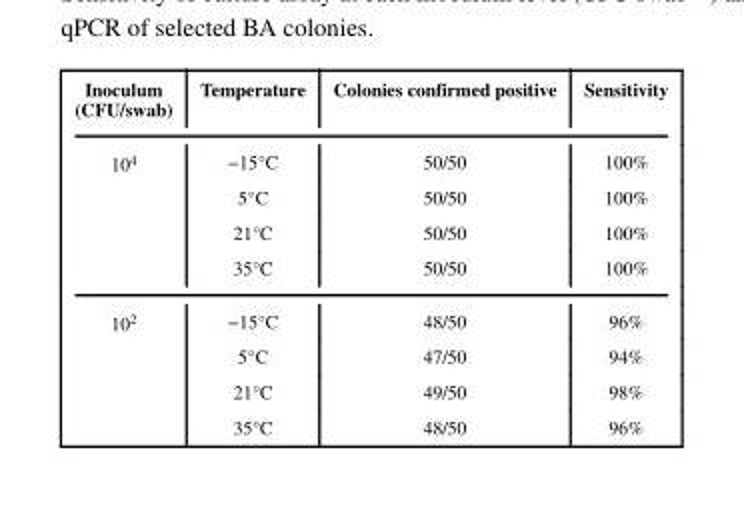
<table><thead><tr><td>Inoculum (CFU/swab)</td><td>Temperature</td><td>Colonies confirmed positive</td><td>Sensitivity</td></tr></thead><tbody><tr><td rowspan="4">10<sup>4</sup></td><td>−15°C</td><td>50/50</td><td>100%</td></tr><tr><td>5°C</td><td>50/50</td><td>100%</td></tr><tr><td>21°C</td><td>50/50</td><td>100%</td></tr><tr><td>35°C</td><td>50/50</td><td>100%</td></tr><tr><td rowspan="4">10<sup>2</sup></td><td>−15°C</td><td>48/50</td><td>96%</td></tr><tr><td>5°C</td><td>47/50</td><td>94%</td></tr><tr><td>21°C</td><td>49/50</td><td>98%</td></tr><tr><td>35°C</td><td>48/50</td><td>96%</td></tr></tbody></table>